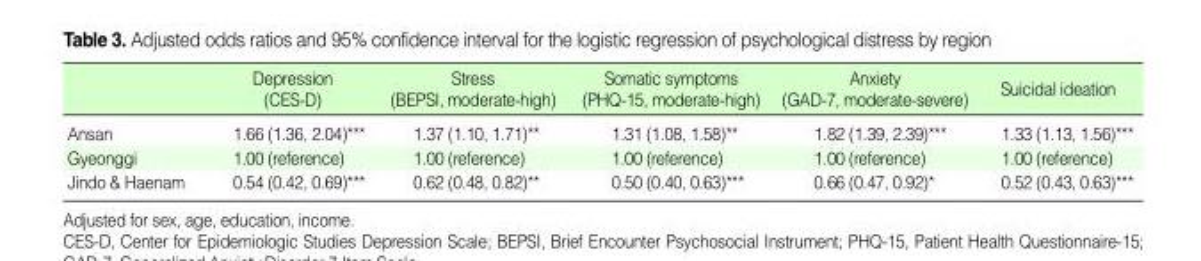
<table><thead><tr><td></td><td>Depression (CES-D)</td><td>Stress (BEPSI, moderate-high)</td><td>Somatic symptoms (PHQ-15, moderate-high)</td><td>Anxiety (GAD-7, moderate-severe)</td><td>Suicidal ideation</td></tr></thead><tbody><tr><td>Ansan</td><td>1.66 (1.36, 2.04)***</td><td>1.37 (1.10, 1.71)**</td><td>1.31 (1.08, 1.58)**</td><td>1.82 (1.39, 2.39)***</td><td>1.33 (1.13, 1.56)***</td></tr><tr><td>Gyeonggi</td><td>1.00 (reference)</td><td>1.00 (reference)</td><td>1.00 (reference)</td><td>1.00 (reference)</td><td>1.00 (reference)</td></tr><tr><td>Jindo &amp; Haenam</td><td>0.54 (0.42, 0.69)***</td><td>0.62 (0.48, 0.82)**</td><td>0.50 (0.40, 0.63)***</td><td>0.66 (0.47, 0.92)*</td><td>0.52 (0.43, 0.63)***</td></tr></tbody></table>